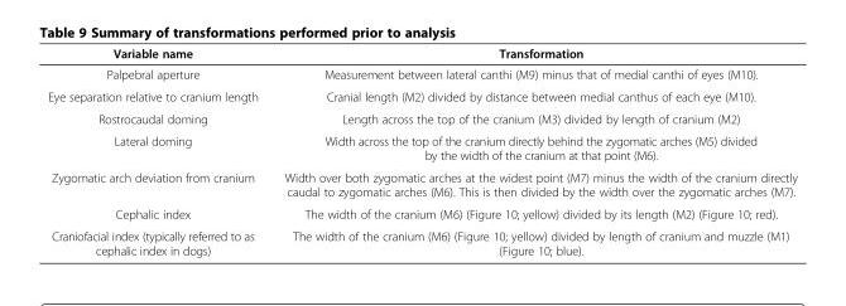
<table><thead><tr><td>Variable name</td><td>Transformation</td></tr></thead><tbody><tr><td>Palpebral aperture</td><td>Measurement between lateral canthi (M9) minus that of medial canthi of eyes (M10).</td></tr><tr><td>Eye separation relative to cranium length</td><td>Cranial length (M2) divided by distance between medial canthus of each eye (M10).</td></tr><tr><td>Rostrocaudal doming</td><td>Length across the top of the cranium (M3) divided by length of cranium (M2)</td></tr><tr><td>Lateral doming</td><td>Width across the top of the cranium directly behind the zygomatic arches (M5) divided by the width of the cranium at that point (M6).</td></tr><tr><td>Zygomatic arch deviation from cranium</td><td>Width over both zygomatic arches at the widest point (M7) minus the width of the cranium directly caudal to zygomatic arches (M6). This is then divided by the width over the zygomatic arches (M7).</td></tr><tr><td>Cephalic index</td><td>The width of the cranium (M6) (Figure 10; yellow) divided by its length (M2) (Figure 10; red).</td></tr><tr><td>Craniofacial index (typically referred to as cephalic index in dogs)</td><td>The width of the cranium (M6) (Figure 10; yellow) divided by length of cranium and muzzle (M1) (Figure 10; blue).</td></tr></tbody></table>